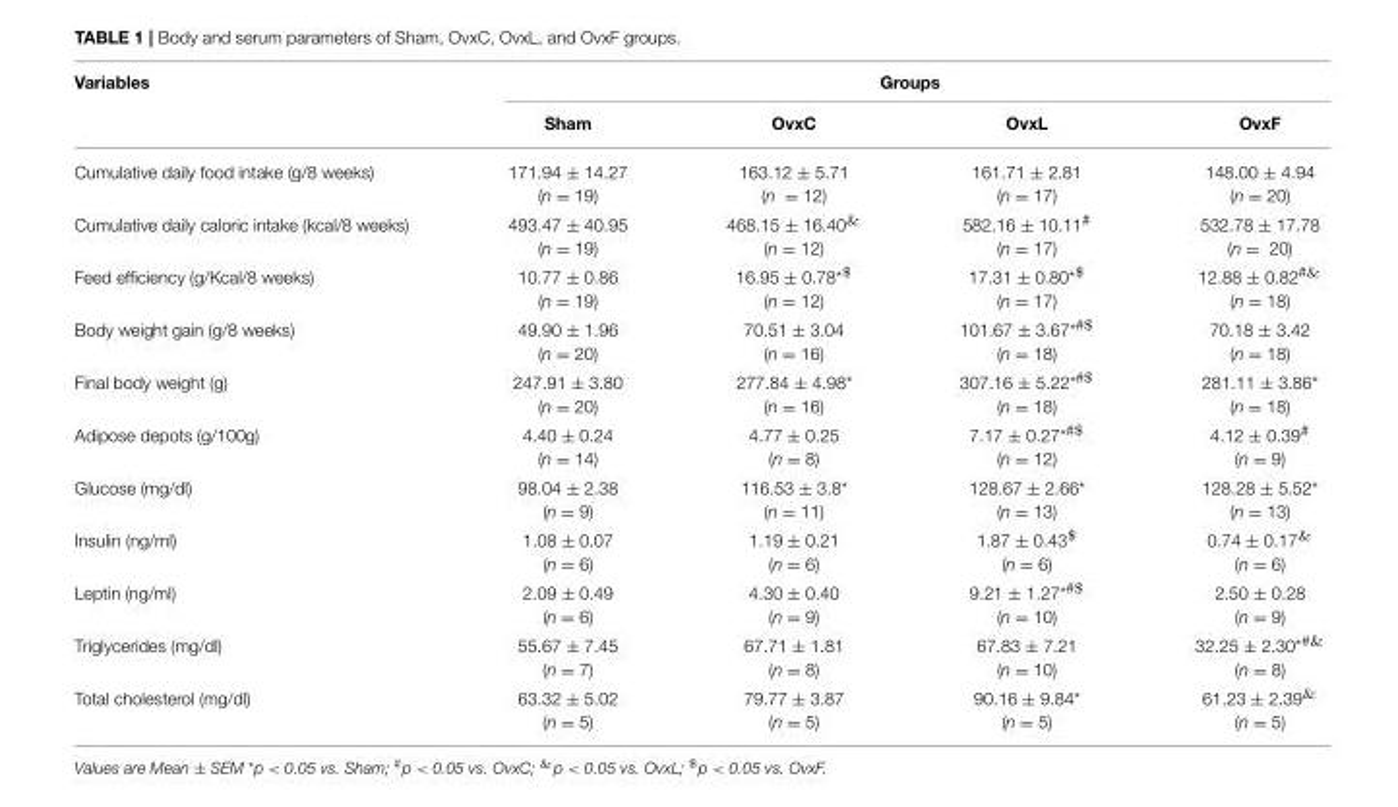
<table><thead><tr><td rowspan="2">Variables</td><td colspan="4">Groups</td></tr><tr><td>Sham</td><td>OvxC</td><td>OvxL</td><td>OvxF</td></tr></thead><tbody><tr><td>Cumulative daily food intake (g/8 weeks)</td><td>171.94 ± 14.27 (n = 19)</td><td>163.12 ± 5.71 (n = 12)</td><td>161.71 ± 2.81 (n = 17)</td><td>148.00 ± 4.94 (n = 20)</td></tr><tr><td>Cumulative daily caloric intake (kcal/8 weeks)</td><td>493.47 ± 40.95 (n = 19)</td><td>468.15 ± 16.40<sup>&amp;</sup> (n = 12)</td><td>582.16 ± 10.11<sup>#</sup> (n = 17)</td><td>532.78 ± 17.78 (n = 20)</td></tr><tr><td>Feed efficiency (g/Kcal/8 weeks)</td><td>10.77 ± 0.86 (n = 19)</td><td>16.95 ± 0.78<sup>*$</sup> (n = 12)</td><td>17.31 ± 0.80<sup>*$</sup> (n = 17)</td><td>12.88 ± 0.82<sup>#&amp;</sup> (n = 18)</td></tr><tr><td>Body weight gain (g/8 weeks)</td><td>49.90 ± 1.96 (n = 20)</td><td>70.51 ± 3.04 (n = 16)</td><td>101.67 ± 3.67*#$ (n = 18)</td><td>70.18 ± 3.42 (n = 18)</td></tr><tr><td>Final body weight (g)</td><td>247.91 ± 3.80 (n = 20)</td><td>277.84 ± 4.98* (n = 16)</td><td>307.16 ± 5.22*#$ (n = 18)</td><td>281.11 ± 3.86* (n = 18)</td></tr><tr><td>Adipose depots (g/100g)</td><td>4.40 ± 0.24 (n = 14)</td><td>4.77 ± 0.25 (n = 8)</td><td>7.17 ± 0.27<sup>*#$</sup> (n = 12)</td><td>4.12 ± 0.39<sup>#</sup> (n = 9)</td></tr><tr><td>Glucose (mg/dl)</td><td>98.04 ± 2.38 (n = 9)</td><td>116.53 ± 3.8* (n = 11)</td><td>128.67 ± 2.66* (n = 13)</td><td>128.28 ± 5.52* (n = 13)</td></tr><tr><td>Insulin (ng/ml)</td><td>1.08 ± 0.07 (n = 6)</td><td>1.19 ± 0.21 (n = 6)</td><td>1.87 ± 0.43<sup>$</sup> (n = 6)</td><td>0.74 ± 0.17<sup>&amp;</sup> (n = 6)</td></tr><tr><td>Leptin (ng/ml)</td><td>2.09 ± 0.49 (n = 6)</td><td>4.30 ± 0.40 (n = 9)</td><td>9.21 ± 1.27*#<sup>$</sup> (n = 10)</td><td>2.50 ± 0.28 (n = 9)</td></tr><tr><td>Triglycerides (mg/dl)</td><td>55.67 ± 7.45 (n = 7)</td><td>67.71 ± 1.81 (n = 8)</td><td>67.83 ± 7.21 (n = 10)</td><td>32.25 ± 2.30*#&amp; (n = 8)</td></tr><tr><td>Total cholesterol (mg/dl)</td><td>63.32 ± 5.02 (n = 5)</td><td>79.77 ± 3.87 (n = 5)</td><td>90.16 ± 9.84* (n = 5)</td><td>61.23 ± 2.39<sup>&amp;</sup> (n = 5)</td></tr></tbody></table>